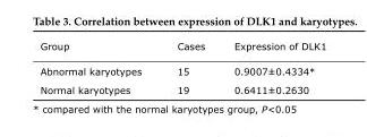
<table><thead><tr><td>Group</td><td>Cases</td><td>Expression of DLK1</td></tr></thead><tbody><tr><td>Abnormal karyotypes</td><td>15</td><td>0.9007±0.4334*</td></tr><tr><td>Normal karyotypes</td><td>19</td><td>0.6411±0.2630</td></tr></tbody></table>